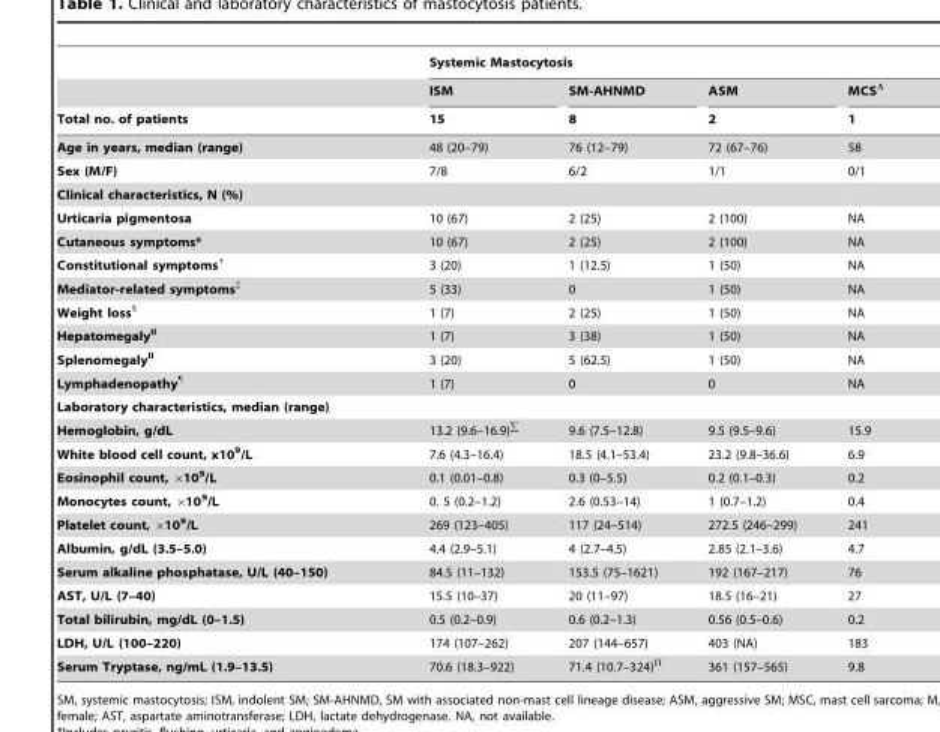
<table><thead><tr><td rowspan="3">Total no. of patients</td><td colspan="4">Systemic Mastocytosis</td></tr><tr><td rowspan="2">ISM 15</td><td rowspan="2">SM-AHNMD 8</td><td rowspan="2">ASM 2</td><td rowspan="2">MCSΔ 1</td></tr><tr></tr></thead><tbody><tr><td>Age in years, median (range)</td><td>48 (20–79)</td><td>76 (12–79)</td><td>72 (67–76)</td><td>58</td></tr><tr><td>Sex (M/F)</td><td>7/8</td><td>6/2</td><td>1/1</td><td>0/1</td></tr><tr><td colspan="5">Clinical characteristics, N (%)</td></tr><tr><td>Urticaria pigmentosa</td><td>10 (67)</td><td>2 (25)</td><td>2 (100)</td><td>NA</td></tr><tr><td>Cutaneous symptoms*</td><td>10 (67)</td><td>2 (25)</td><td>2 (100)</td><td>NA</td></tr><tr><td>Constitutional symptoms†</td><td>3 (20)</td><td>1 (12.5)</td><td>1 (50)</td><td>NA</td></tr><tr><td>Mediator-related symptoms‡</td><td>5 (33)</td><td>0</td><td>1 (50)</td><td>NA</td></tr><tr><td>Weight loss§</td><td>1 (7)</td><td>2 (25)</td><td>1 (50)</td><td>NA</td></tr><tr><td>HepatomegalyII</td><td>1 (7)</td><td>3 (38)</td><td>1 (50)</td><td>NA</td></tr><tr><td>SplenomegalyII</td><td>3 (20)</td><td>5 (62.5)</td><td>1 (50)</td><td>NA</td></tr><tr><td>Lymphadenopathy¶</td><td>1 (7)</td><td>0</td><td>0</td><td>NA</td></tr><tr><td colspan="5">Laboratory characteristics, median (range)</td></tr><tr><td>Hemoglobin, g/dL</td><td>13.2 (9.6–16.9)∑</td><td>9.6 (7.5–12.8)</td><td>9.5 (9.5–9.6)</td><td>15.9</td></tr><tr><td>White blood cell count, x10<sup>9</sup>/L</td><td>7.6 (4.3–16.4)</td><td>18.5 (4.1–53.4)</td><td>23.2 (9.8–36.6)</td><td>6.9</td></tr><tr><td>Eosinophil count, ×10<sup>9</sup>/L</td><td>0.1 (0.01–0.8)</td><td>0.3 (0–5.5)</td><td>0.2 (0.1–0.3)</td><td>0.2</td></tr><tr><td>Monocytes count, ×10<sup>9</sup>/L</td><td>0. 5 (0.2–1.2)</td><td>2.6 (0.53–14)</td><td>1 (0.7–1.2)</td><td>0.4</td></tr><tr><td>Platelet count, ×10<sup>9</sup>/L</td><td>269 (123–405)</td><td>117 (24–514)</td><td>272.5 (246–299)</td><td>241</td></tr><tr><td>Albumin, g/dL (3.5–5.0)</td><td>4.4 (2.9–5.1)</td><td>4 (2.7–4.5)</td><td>2.85 (2.1–3.6)</td><td>4.7</td></tr><tr><td>Serum alkaline phosphatase, U/L (40–150)</td><td>84.5 (11–132)</td><td>153.5 (75–1621)</td><td>192 (167–217)</td><td>76</td></tr><tr><td>AST, U/L (7–40)</td><td>15.5 (10–37)</td><td>20 (11–97)</td><td>18.5 (16–21)</td><td>27</td></tr><tr><td>Total bilirubin, mg/dL (0–1.5)</td><td>0.5 (0.2–0.9)</td><td>0.6 (0.2–1.3)</td><td>0.56 (0.5–0.6)</td><td>0.2</td></tr><tr><td>LDH, U/L (100–220)</td><td>174 (107–262)</td><td>207 (144–657)</td><td>403 (NA)</td><td>183</td></tr><tr><td>Serum Tryptase, ng/mL (1.9–13.5)</td><td>70.6 (18.3–922)</td><td>71.4 (10.7–324)Π</td><td>361 (157–565)</td><td>9.8</td></tr></tbody></table>